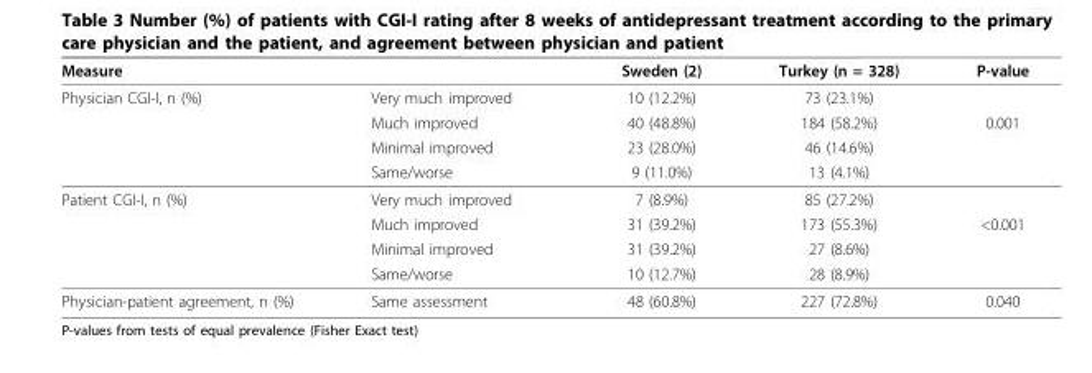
<table><thead><tr><td colspan="2">Measure</td><td rowspan="2">Sweden (2) 10 (12.2%)</td><td rowspan="2">Turkey (n = 328) 73 (23.1%)</td><td rowspan="2">P-value</td></tr><tr><td>Physician CGI-I, n (%)</td><td>Very much improved</td></tr></thead><tbody><tr><td></td><td>Much improved</td><td>40 (48.8%)</td><td>184 (58.2%)</td><td>0.001</td></tr><tr><td></td><td>Minimal improved</td><td>23 (28.0%)</td><td>46 (14.6%)</td><td></td></tr><tr><td></td><td>Same/worse</td><td>9 (11.0%)</td><td>13 (4.1%)</td><td></td></tr><tr><td rowspan="4">Patient CGI-I, n (%)</td><td>Very much improved</td><td>7 (8.9%)</td><td>85 (27.2%)</td><td></td></tr><tr><td>Much improved</td><td>31 (39.2%)</td><td>173 (55.3%)</td><td>&lt;0.001</td></tr><tr><td>Minimal improved</td><td>31 (39.2%)</td><td>27 (8.6%)</td><td></td></tr><tr><td>Same/worse</td><td>10 (12.7%)</td><td>28 (8.9%)</td><td></td></tr><tr><td>Physician-patient agreement, n (%)</td><td>Same assessment</td><td>48 (60.8%)</td><td>227 (72.8%)</td><td>0.040</td></tr></tbody></table>